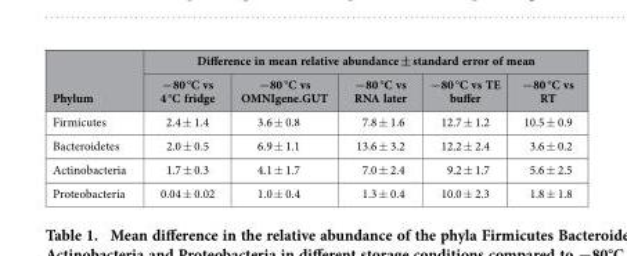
<table><thead><tr><td rowspan="2">Phylum</td><td colspan="5">Difference in mean relative abundance ± standard error of mean</td></tr><tr><td>−80 °C vs 4 °C fridge</td><td>−80 °C vs OMNIgene.GUT</td><td>−80 °C vs RNA later</td><td>−80 °C vs TE buffer</td><td>−80 °C vs RT</td></tr></thead><tbody><tr><td>Firmicutes</td><td>2.4 ± 1.4</td><td>3.6 ± 0.8</td><td>7.8 ± 1.6</td><td>12.7 ± 1.2</td><td>10.5 ± 0.9</td></tr><tr><td>Bacteroidetes</td><td>2.0 ± 0.5</td><td>6.9 ± 1.1</td><td>13.6 ± 3.2</td><td>12.2 ± 2.4</td><td>3.6 ± 0.2</td></tr><tr><td>Actinobacteria</td><td>1.7 ± 0.3</td><td>4.1 ± 1.7</td><td>7.0 ± 2.4</td><td>9.2 ± 1.7</td><td>5.6 ± 2.5</td></tr><tr><td>Proteobacteria</td><td>0.04 ± 0.02</td><td>1.0 ± 0.4</td><td>1.3 ± 0.4</td><td>10.0 ± 2.3</td><td>1.8 ± 1.8</td></tr></tbody></table>